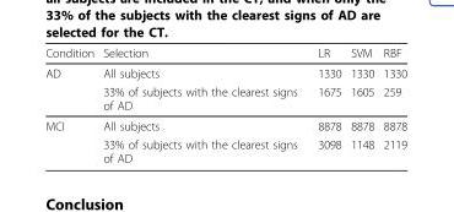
<table><thead><tr><td>Condition</td><td>Selection</td><td>LR</td><td>SVM</td><td>RBF</td></tr></thead><tbody><tr><td rowspan="2">AD</td><td>All subjects</td><td>1330</td><td>1330</td><td>1330</td></tr><tr><td>33% of subjects with the clearest signs of AD</td><td>1675</td><td>1605</td><td>259</td></tr><tr><td rowspan="2">MCI</td><td>All subjects</td><td>8878</td><td>8878</td><td>8878</td></tr><tr><td>33% of subjects with the clearest signs of AD</td><td>3098</td><td>1148</td><td>2119</td></tr></tbody></table>